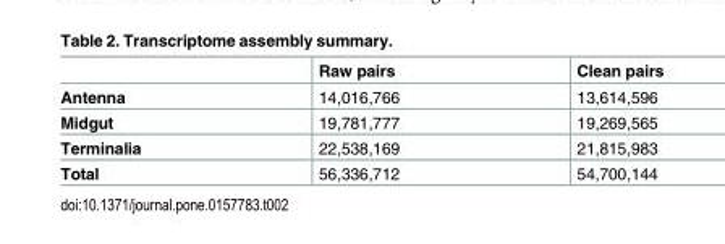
<table><thead><tr><td></td><td>Raw pairs</td><td>Clean pairs</td></tr></thead><tbody><tr><td>Antenna</td><td>14,016,766</td><td>13,614,596</td></tr><tr><td>Midgut</td><td>19,781,777</td><td>19,269,565</td></tr><tr><td>Terminalia</td><td>22,538,169</td><td>21,815,983</td></tr><tr><td>Total</td><td>56,336,712</td><td>54,700,144</td></tr></tbody></table>